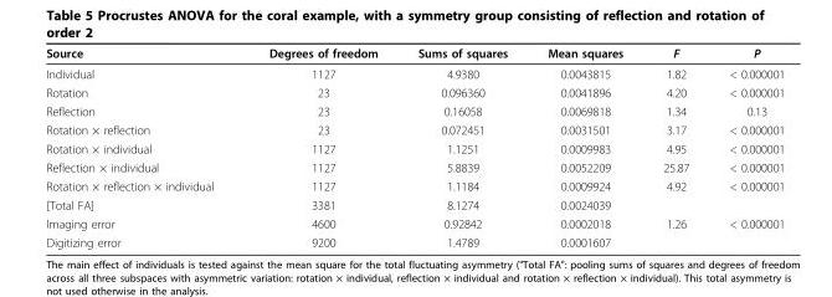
<table><thead><tr><td>Source</td><td>Degrees of freedom</td><td>Sums of squares</td><td>Mean squares</td><td>F</td><td>P</td></tr></thead><tbody><tr><td>Individual</td><td>1127</td><td>4.9380</td><td>0.0043815</td><td>1.82</td><td>&lt; 0.000001</td></tr><tr><td>Rotation</td><td>23</td><td>0.096360</td><td>0.0041896</td><td>4.20</td><td>&lt; 0.000001</td></tr><tr><td>Reflection</td><td>23</td><td>0.16058</td><td>0.0069818</td><td>1.34</td><td>0.13</td></tr><tr><td>Rotation × reflection</td><td>23</td><td>0.072451</td><td>0.0031501</td><td>3.17</td><td>&lt; 0.000001</td></tr><tr><td>Rotation × individual</td><td>1127</td><td>1.1251</td><td>0.0009983</td><td>4.95</td><td>&lt; 0.000001</td></tr><tr><td>Reflection × individual</td><td>1127</td><td>5.8839</td><td>0.0052209</td><td>25.87</td><td>&lt; 0.000001</td></tr><tr><td>Rotation × reflection × individual</td><td>1127</td><td>1.1184</td><td>0.0009924</td><td>4.92</td><td>&lt; 0.000001</td></tr><tr><td>[Total FA]</td><td>3381</td><td>8.1274</td><td>0.0024039</td><td></td><td></td></tr><tr><td>Imaging error</td><td>4600</td><td>0.92842</td><td>0.0002018</td><td>1.26</td><td>&lt; 0.000001</td></tr><tr><td>Digitizing error</td><td>9200</td><td>1.4789</td><td>0.0001607</td><td></td><td></td></tr></tbody></table>